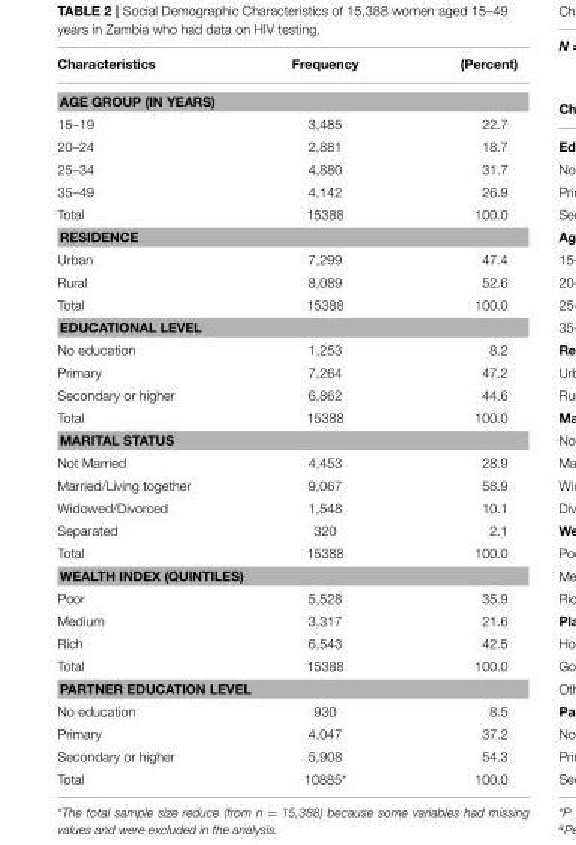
<table><thead><tr><td>Characteristics</td><td>Frequency</td><td>(Percent)</td></tr></thead><tbody><tr><td colspan="3">AGE GROUP (IN YEARS)</td></tr><tr><td>15–19</td><td>3,485</td><td>22.7</td></tr><tr><td>20–24</td><td>2,881</td><td>18.7</td></tr><tr><td>25–34</td><td>4,880</td><td>31.7</td></tr><tr><td>35–49</td><td>4,142</td><td>26.9</td></tr><tr><td>Total</td><td>15388</td><td>100.0</td></tr><tr><td colspan="3">RESIDENCE</td></tr><tr><td>Urban</td><td>7,299</td><td>47.4</td></tr><tr><td>Rural</td><td>8,089</td><td>52.6</td></tr><tr><td>Total</td><td>15388</td><td>100.0</td></tr><tr><td colspan="3">EDUCATIONAL LEVEL</td></tr><tr><td>No education</td><td>1,253</td><td>8.2</td></tr><tr><td>Primary</td><td>7,264</td><td>47.2</td></tr><tr><td>Secondary or higher</td><td>6,862</td><td>44.6</td></tr><tr><td>Total</td><td>15388</td><td>100.0</td></tr><tr><td colspan="3">MARITAL STATUS</td></tr><tr><td>Not Married</td><td>4,453</td><td>28.9</td></tr><tr><td>Married/Living together</td><td>9,067</td><td>58.9</td></tr><tr><td>Widowed/Divorced</td><td>1,548</td><td>10.1</td></tr><tr><td>Separated</td><td>320</td><td>2.1</td></tr><tr><td>Total</td><td>15388</td><td>100.0</td></tr><tr><td colspan="3">WEALTH INDEX (QUINTILES)</td></tr><tr><td>Poor</td><td>5,528</td><td>35.9</td></tr><tr><td>Medium</td><td>3,317</td><td>21.6</td></tr><tr><td>Rich</td><td>6,543</td><td>42.5</td></tr><tr><td>Total</td><td>15388</td><td>100.0</td></tr><tr><td colspan="3">PARTNER EDUCATION LEVEL</td></tr><tr><td>No education</td><td>930</td><td>8.5</td></tr><tr><td>Primary</td><td>4,047</td><td>37.2</td></tr><tr><td>Secondary or higher</td><td>5,908</td><td>54.3</td></tr><tr><td>Total</td><td>10885*</td><td>100.0</td></tr></tbody></table>